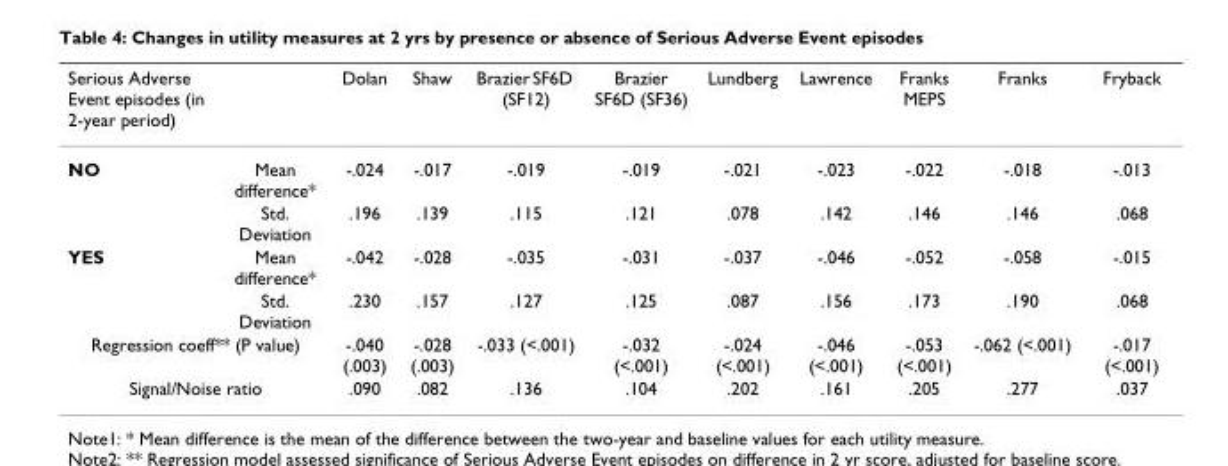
<table><thead><tr><td>Serious Adverse Event episodes (in 2-year period)</td><td></td><td>Dolan</td><td>Shaw</td><td>Brazier SF6D (SF12)</td><td>Brazier SF6D (SF36)</td><td>Lundberg</td><td>Lawrence</td><td>Franks MEPS</td><td>Franks</td><td>Fryback</td></tr></thead><tbody><tr><td rowspan="2">NO</td><td>Mean difference*</td><td>-.024</td><td>-.017</td><td>-.019</td><td>-.019</td><td>-.021</td><td>-.023</td><td>-.022</td><td>-.018</td><td>-.013</td></tr><tr><td>Std. Deviation</td><td>.196</td><td>.139</td><td>.115</td><td>.121</td><td>.078</td><td>.142</td><td>.146</td><td>.146</td><td>.068</td></tr><tr><td rowspan="2">YES</td><td>Mean difference*</td><td>-.042</td><td>-.028</td><td>-.035</td><td>-.031</td><td>-.037</td><td>-.046</td><td>-.052</td><td>-.058</td><td>-.015</td></tr><tr><td>Std. Deviation</td><td>.230</td><td>.157</td><td>.127</td><td>.125</td><td>.087</td><td>.156</td><td>.173</td><td>.190</td><td>.068</td></tr><tr><td colspan="2">Regression coeff** (P value)</td><td>-.040 (.003)</td><td>-.028 (.003)</td><td>-.033 (&lt;.001)</td><td>-.032 (&lt;.001)</td><td>-.024 (&lt;.001)</td><td>-.046 (&lt;.001)</td><td>-.053 (&lt;.001)</td><td>-.062 (&lt;.001)</td><td>-.017 (&lt;.001)</td></tr><tr><td colspan="2">Signal/Noise ratio</td><td>.090</td><td>.082</td><td>.136</td><td>.104</td><td>.202</td><td>.161</td><td>.205</td><td>.277</td><td>.037</td></tr></tbody></table>